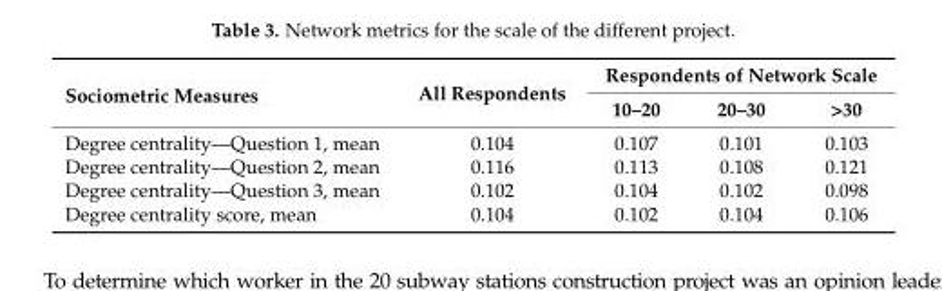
<table><thead><tr><td rowspan="2">Sociometric Measures</td><td rowspan="2">All Respondents</td><td colspan="3">Respondents of Network Scale</td></tr><tr><td>10–20</td><td>20–30</td><td>&gt;30</td></tr></thead><tbody><tr><td>Degree centrality—Question 1, mean</td><td>0.104</td><td>0.107</td><td>0.101</td><td>0.103</td></tr><tr><td>Degree centrality—Question 2, mean</td><td>0.116</td><td>0.113</td><td>0.108</td><td>0.121</td></tr><tr><td>Degree centrality—Question 3, mean</td><td>0.102</td><td>0.104</td><td>0.102</td><td>0.098</td></tr><tr><td>Degree centrality score, mean</td><td>0.104</td><td>0.102</td><td>0.104</td><td>0.106</td></tr></tbody></table>